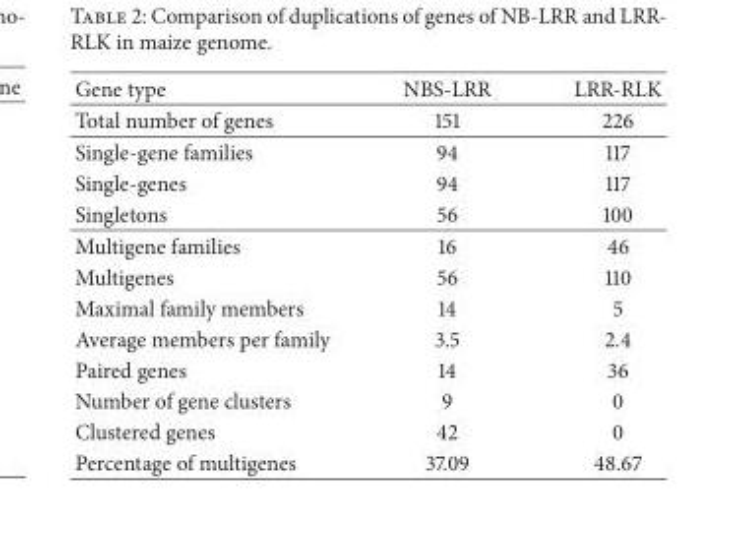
<table><thead><tr><td>Gene type</td><td>NBS-LRR</td><td>LRR-RLK</td></tr></thead><tbody><tr><td>Total number of genes</td><td>151</td><td>226</td></tr><tr><td>Single-gene families</td><td>94</td><td>117</td></tr><tr><td>Single-genes</td><td>94</td><td>117</td></tr><tr><td>Singletons</td><td>56</td><td>100</td></tr><tr><td>Multigene families</td><td>16</td><td>46</td></tr><tr><td>Multigenes</td><td>56</td><td>110</td></tr><tr><td>Maximal family members</td><td>14</td><td>5</td></tr><tr><td>Average members per family</td><td>3.5</td><td>2.4</td></tr><tr><td>Paired genes</td><td>14</td><td>36</td></tr><tr><td>Number of gene clusters</td><td>9</td><td>0</td></tr><tr><td>Clustered genes</td><td>42</td><td>0</td></tr><tr><td>Percentage of multigenes</td><td>37.09</td><td>48.67</td></tr></tbody></table>